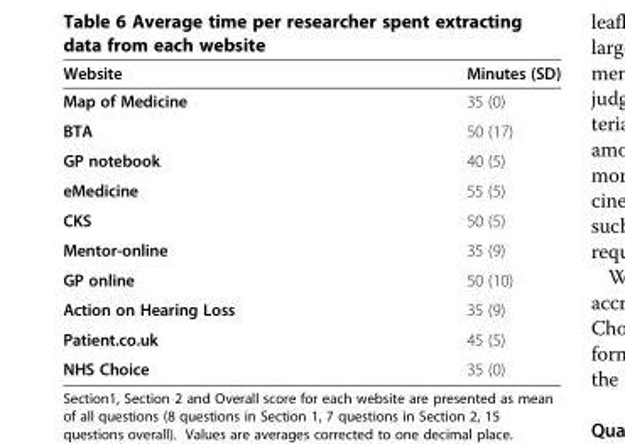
<table><thead><tr><td>Website</td><td>Minutes (SD)</td></tr></thead><tbody><tr><td>Map of Medicine</td><td>35 (0)</td></tr><tr><td>BTA</td><td>50 (17)</td></tr><tr><td>GP notebook</td><td>40 (5)</td></tr><tr><td>eMedicine</td><td>55 (5)</td></tr><tr><td>CKS</td><td>50 (5)</td></tr><tr><td>Mentor-online</td><td>35 (9)</td></tr><tr><td>GP online</td><td>50 (10)</td></tr><tr><td>Action on Hearing Loss</td><td>35 (9)</td></tr><tr><td>Patient.co.uk</td><td>45 (5)</td></tr><tr><td>NHS Choice</td><td>35 (0)</td></tr></tbody></table>